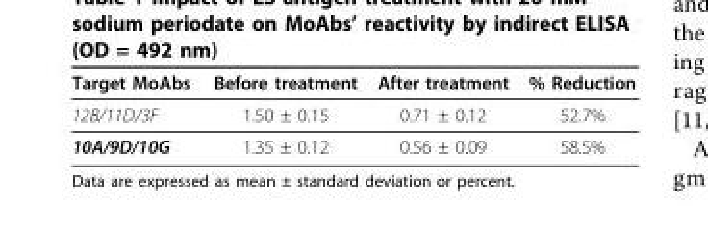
<table><thead><tr><td>Target MoAbs</td><td>Before treatment</td><td>After treatment</td><td>% Reduction</td></tr></thead><tbody><tr><td>12B/11D/3F</td><td>1.50 ± 0.15</td><td>0.71 ± 0.12</td><td>52.7%</td></tr><tr><td>10A/9D/10G</td><td>1.35 ± 0.12</td><td>0.56 ± 0.09</td><td>58.5%</td></tr></tbody></table>